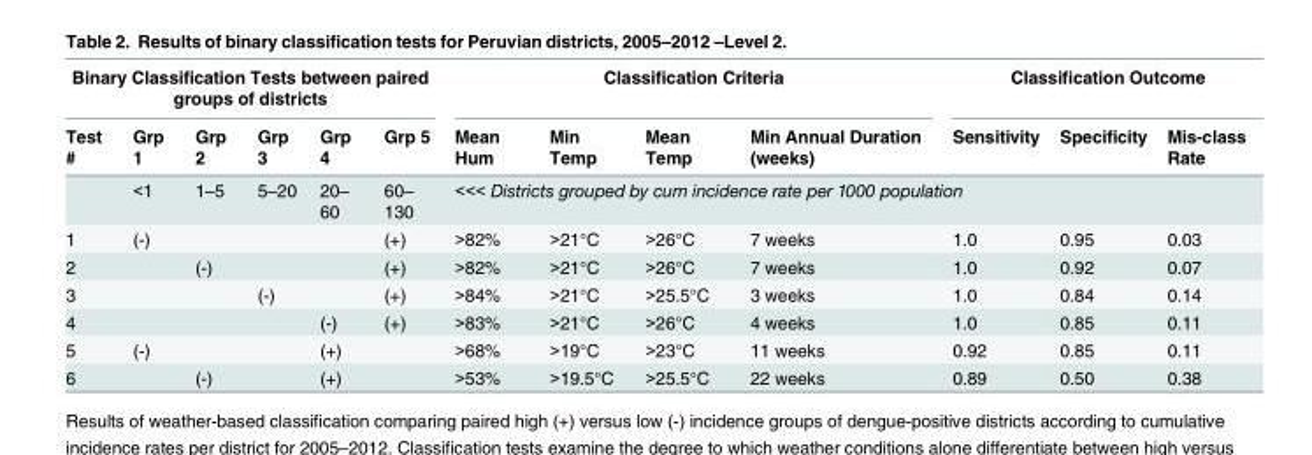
<table><thead><tr><td colspan="6">Binary Classification Tests between paired groups of districts</td><td colspan="4">Classification Criteria</td><td colspan="3">Classification Outcome</td></tr><tr><td>Test #</td><td>Grp 1</td><td>Grp 2</td><td>Grp 3</td><td>Grp 4</td><td>Grp 5</td><td>Mean Hum</td><td>Min Temp</td><td>Mean Temp</td><td>Min Annual Duration (weeks)</td><td>Sensitivity</td><td>Specificity</td><td>Mis-class Rate</td></tr></thead><tbody><tr><td></td><td>&lt;1</td><td>1–5</td><td>5–20</td><td>20– 60</td><td>60– 130</td><td colspan="7">&lt;&lt;&lt; Districts grouped by cum incidence rate per 1000 population</td></tr><tr><td>1</td><td>(-)</td><td></td><td></td><td></td><td>(+)</td><td>&gt;82%</td><td>&gt;21°C</td><td>&gt;26°C</td><td>7 weeks</td><td>1.0</td><td>0.95</td><td>0.03</td></tr><tr><td>2</td><td></td><td>(-)</td><td></td><td></td><td>(+)</td><td>&gt;82%</td><td>&gt;21°C</td><td>&gt;26°C</td><td>7 weeks</td><td>1.0</td><td>0.92</td><td>0.07</td></tr><tr><td>3</td><td></td><td></td><td>(-)</td><td></td><td>(+)</td><td>&gt;84%</td><td>&gt;21°C</td><td>&gt;25.5°C</td><td>3 weeks</td><td>1.0</td><td>0.84</td><td>0.14</td></tr><tr><td>4</td><td></td><td></td><td></td><td>(-)</td><td>(+)</td><td>&gt;83%</td><td>&gt;21°C</td><td>&gt;26°C</td><td>4 weeks</td><td>1.0</td><td>0.85</td><td>0.11</td></tr><tr><td>5</td><td>(-)</td><td></td><td></td><td>(+)</td><td></td><td>&gt;68%</td><td>&gt;19°C</td><td>&gt;23°C</td><td>11 weeks</td><td>0.92</td><td>0.85</td><td>0.11</td></tr><tr><td>6</td><td></td><td>(-)</td><td></td><td>(+)</td><td></td><td>&gt;53%</td><td>&gt;19.5°C</td><td>&gt;25.5°C</td><td>22 weeks</td><td>0.89</td><td>0.50</td><td>0.38</td></tr></tbody></table>